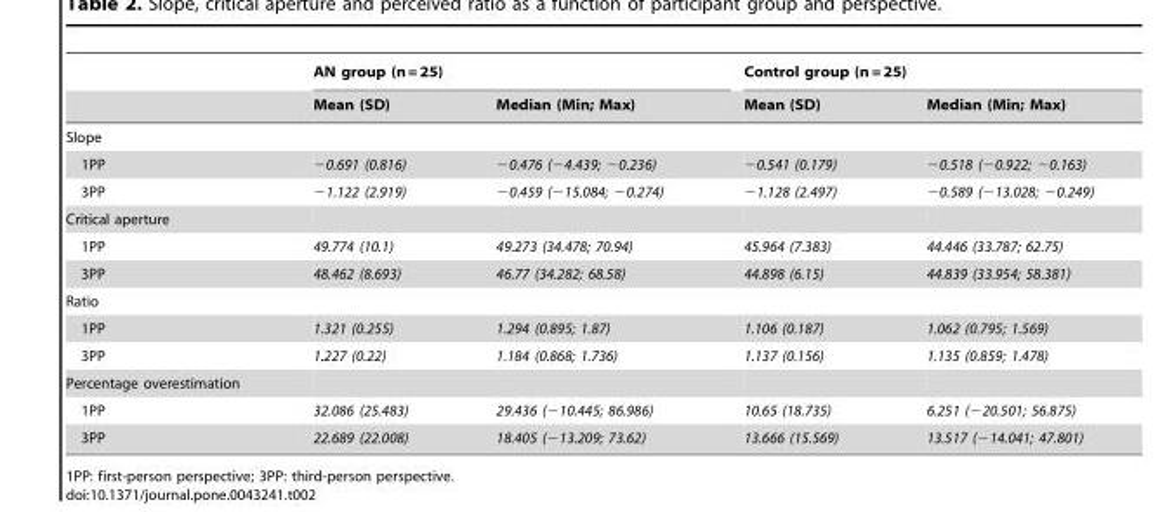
<table><thead><tr><td rowspan="2"></td><td colspan="2">AN group (n = 25)</td><td colspan="2">Control group (n = 25)</td></tr><tr><td>Mean (SD)</td><td>Median (Min; Max)</td><td>Mean (SD)</td><td>Median (Min; Max)</td></tr></thead><tbody><tr><td colspan="5">Slope</td></tr><tr><td>1PP</td><td>−0.691 (0.816)</td><td>−0.476 (−4.439; −0.236)</td><td>−0.541 (0.179)</td><td>−0.518 (−0.922; −0.163)</td></tr><tr><td>3PP</td><td>−1.122 (2.919)</td><td>−0.459 (−15.084; −0.274)</td><td>−1.128 (2.497)</td><td>−0.589 (−13.028; −0.249)</td></tr><tr><td colspan="5">Critical aperture</td></tr><tr><td>1PP</td><td>49.774 (10.1)</td><td>49.273 (34.478; 70.94)</td><td>45.964 (7.383)</td><td>44.446 (33.787; 62.75)</td></tr><tr><td>3PP</td><td>48.462 (8.693)</td><td>46.77 (34.282; 68.58)</td><td>44.898 (6.15)</td><td>44.839 (33.954; 58.381)</td></tr><tr><td colspan="5">Ratio</td></tr><tr><td>1PP</td><td>1.321 (0.255)</td><td>1.294 (0.895; 1.87)</td><td>1.106 (0.187)</td><td>1.062 (0.795; 1.569)</td></tr><tr><td>3PP</td><td>1.227 (0.22)</td><td>1.184 (0.868; 1.736)</td><td>1.137 (0.156)</td><td>1.135 (0.859; 1.478)</td></tr><tr><td colspan="5">Percentage overestimation</td></tr><tr><td>1PP</td><td>32.086 (25.483)</td><td>29.436 (−10.445; 86.986)</td><td>10.65 (18.735)</td><td>6.251 (−20.501; 56.875)</td></tr><tr><td>3PP</td><td>22.689 (22.008)</td><td>18.405 (−13.209; 73.62)</td><td>13.666 (15.569)</td><td>13.517 (−14.041; 47.801)</td></tr></tbody></table>